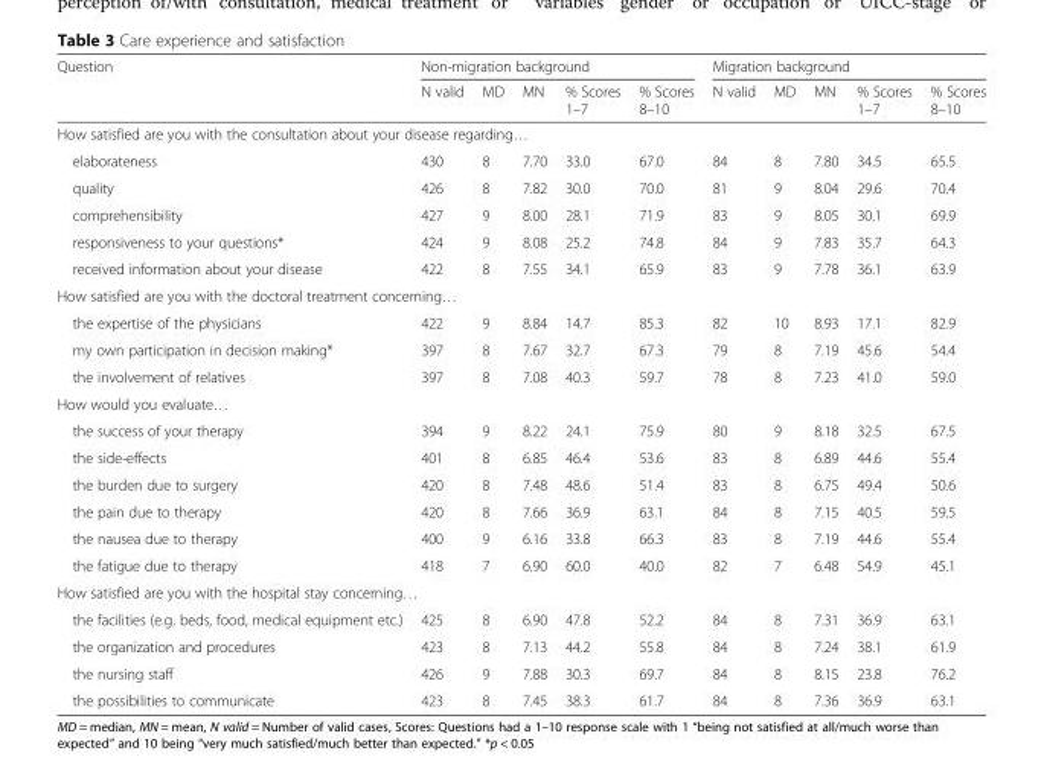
<table><thead><tr><td rowspan="2">Question</td><td colspan="5">Non-migration background</td><td colspan="5">Migration background</td></tr><tr><td>N valid</td><td>MD</td><td>MN</td><td>% Scores 1–7</td><td>% Scores 8–10</td><td>N valid</td><td>MD</td><td>MN</td><td>% Scores 1–7</td><td>% Scores 8–10</td></tr></thead><tbody><tr><td colspan="11">How satisfied are you with the consultation about your disease regarding…</td></tr><tr><td>elaborateness</td><td>430</td><td>8</td><td>7.70</td><td>33.0</td><td>67.0</td><td>84</td><td>8</td><td>7.80</td><td>34.5</td><td>65.5</td></tr><tr><td>quality</td><td>426</td><td>8</td><td>7.82</td><td>30.0</td><td>70.0</td><td>81</td><td>9</td><td>8.04</td><td>29.6</td><td>70.4</td></tr><tr><td>comprehensibility</td><td>427</td><td>9</td><td>8.00</td><td>28.1</td><td>71.9</td><td>83</td><td>9</td><td>8.05</td><td>30.1</td><td>69.9</td></tr><tr><td>responsiveness to your questions*</td><td>424</td><td>9</td><td>8.08</td><td>25.2</td><td>74.8</td><td>84</td><td>9</td><td>7.83</td><td>35.7</td><td>64.3</td></tr><tr><td>received information about your disease</td><td>422</td><td>8</td><td>7.55</td><td>34.1</td><td>65.9</td><td>83</td><td>9</td><td>7.78</td><td>36.1</td><td>63.9</td></tr><tr><td colspan="11">How satisfied are you with the doctoral treatment concerning…</td></tr><tr><td>the expertise of the physicians</td><td>422</td><td>9</td><td>8.84</td><td>14.7</td><td>85.3</td><td>82</td><td>10</td><td>8.93</td><td>17.1</td><td>82.9</td></tr><tr><td>my own participation in decision making*</td><td>397</td><td>8</td><td>7.67</td><td>32.7</td><td>67.3</td><td>79</td><td>8</td><td>7.19</td><td>45.6</td><td>54.4</td></tr><tr><td>the involvement of relatives</td><td>397</td><td>8</td><td>7.08</td><td>40.3</td><td>59.7</td><td>78</td><td>8</td><td>7.23</td><td>41.0</td><td>59.0</td></tr><tr><td colspan="11">How would you evaluate…</td></tr><tr><td>the success of your therapy</td><td>394</td><td>9</td><td>8.22</td><td>24.1</td><td>75.9</td><td>80</td><td>9</td><td>8.18</td><td>32.5</td><td>67.5</td></tr><tr><td>the side-effects</td><td>401</td><td>8</td><td>6.85</td><td>46.4</td><td>53.6</td><td>83</td><td>8</td><td>6.89</td><td>44.6</td><td>55.4</td></tr><tr><td>the burden due to surgery</td><td>420</td><td>8</td><td>7.48</td><td>48.6</td><td>51.4</td><td>83</td><td>8</td><td>6.75</td><td>49.4</td><td>50.6</td></tr><tr><td>the pain due to therapy</td><td>420</td><td>8</td><td>7.66</td><td>36.9</td><td>63.1</td><td>84</td><td>8</td><td>7.15</td><td>40.5</td><td>59.5</td></tr><tr><td>the nausea due to therapy</td><td>400</td><td>9</td><td>6.16</td><td>33.8</td><td>66.3</td><td>83</td><td>8</td><td>7.19</td><td>44.6</td><td>55.4</td></tr><tr><td>the fatigue due to therapy</td><td>418</td><td>7</td><td>6.90</td><td>60.0</td><td>40.0</td><td>82</td><td>7</td><td>6.48</td><td>54.9</td><td>45.1</td></tr><tr><td colspan="11">How satisfied are you with the hospital stay concerning…</td></tr><tr><td>the facilities (e.g. beds, food, medical equipment etc.)</td><td>425</td><td>8</td><td>6.90</td><td>47.8</td><td>52.2</td><td>84</td><td>8</td><td>7.31</td><td>36.9</td><td>63.1</td></tr><tr><td>the organization and procedures</td><td>423</td><td>8</td><td>7.13</td><td>44.2</td><td>55.8</td><td>84</td><td>8</td><td>7.24</td><td>38.1</td><td>61.9</td></tr><tr><td>the nursing staff</td><td>426</td><td>9</td><td>7.88</td><td>30.3</td><td>69.7</td><td>84</td><td>8</td><td>8.15</td><td>23.8</td><td>76.2</td></tr><tr><td>the possibilities to communicate</td><td>423</td><td>8</td><td>7.45</td><td>38.3</td><td>61.7</td><td>84</td><td>8</td><td>7.36</td><td>36.9</td><td>63.1</td></tr></tbody></table>